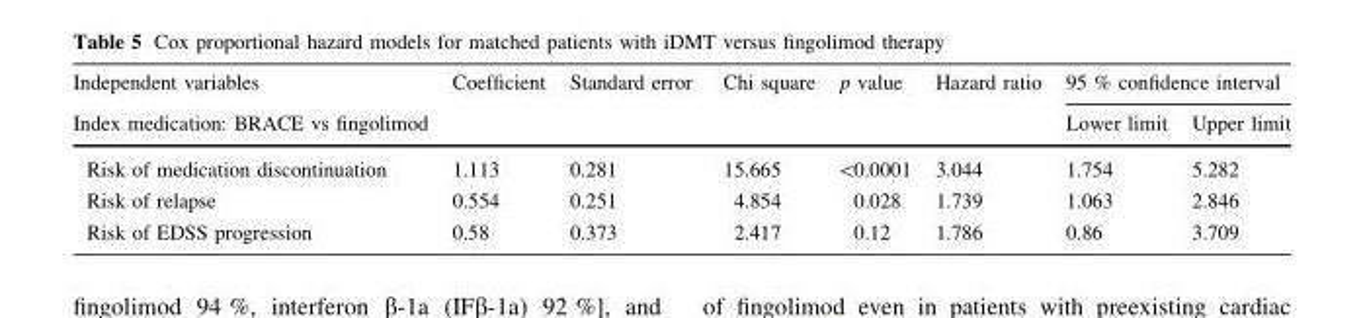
<table><thead><tr><td rowspan="2">Independent variables Index medication: BRACE vs fingolimod</td><td rowspan="2">Coefficient</td><td rowspan="2">Standard error</td><td rowspan="2">Chi square</td><td rowspan="2">p value</td><td rowspan="2">Hazard ratio</td><td colspan="2">95 % confidence interval</td></tr><tr><td>Lower limit</td><td>Upper limit</td></tr></thead><tbody><tr><td>Risk of medication discontinuation</td><td>1.113</td><td>0.281</td><td>15.665</td><td>&lt;0.0001</td><td>3.044</td><td>1.754</td><td>5.282</td></tr><tr><td>Risk of relapse</td><td>0.554</td><td>0.251</td><td>4.854</td><td>0.028</td><td>1.739</td><td>1.063</td><td>2.846</td></tr><tr><td>Risk of EDSS progression</td><td>0.58</td><td>0.373</td><td>2.417</td><td>0.12</td><td>1.786</td><td>0.86</td><td>3.709</td></tr></tbody></table>